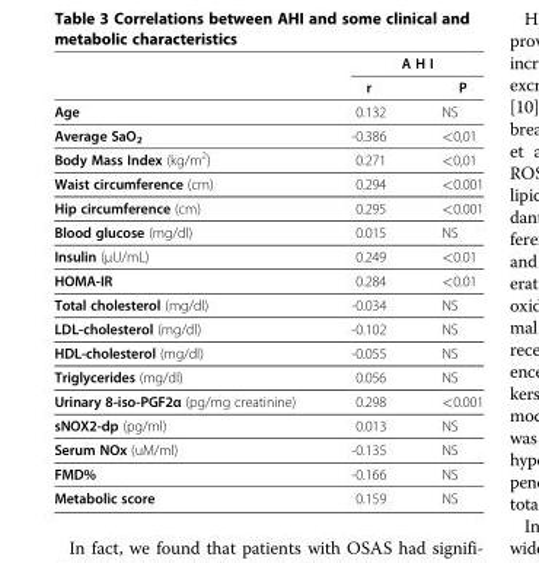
<table><thead><tr><td rowspan="2"></td><td colspan="2">A H I</td></tr><tr><td>r</td><td>P</td></tr></thead><tbody><tr><td>Age</td><td>0.132</td><td>NS</td></tr><tr><td>Average SaO<sub>2</sub></td><td>-0.386</td><td>&lt;0,01</td></tr><tr><td>Body Mass Index (kg/m<sup>2</sup>)</td><td>0.271</td><td>&lt;0,01</td></tr><tr><td>Waist circumference (cm)</td><td>0.294</td><td>&lt;0.001</td></tr><tr><td>Hip circumference (cm)</td><td>0.295</td><td>&lt;0.001</td></tr><tr><td>Blood glucose (mg/dl)</td><td>0.015</td><td>NS</td></tr><tr><td>Insulin (μU/mL)</td><td>0.249</td><td>&lt;0.01</td></tr><tr><td>HOMA-IR</td><td>0.284</td><td>&lt;0.01</td></tr><tr><td>Total cholesterol (mg/dl)</td><td>-0.034</td><td>NS</td></tr><tr><td>LDL-cholesterol (mg/dl)</td><td>-0.102</td><td>NS</td></tr><tr><td>HDL-cholesterol (mg/dl)</td><td>-0.055</td><td>NS</td></tr><tr><td>Triglycerides (mg/dl)</td><td>0.056</td><td>NS</td></tr><tr><td>Urinary 8-iso-PGF2α (pg/mg creatinine)</td><td>0.298</td><td>&lt;0.001</td></tr><tr><td>sNOX2-dp (pg/ml)</td><td>0.013</td><td>NS</td></tr><tr><td>Serum NOx (uM/ml)</td><td>-0.135</td><td>NS</td></tr><tr><td>FMD%</td><td>-0.166</td><td>NS</td></tr><tr><td>Metabolic score</td><td>0.159</td><td>NS</td></tr></tbody></table>